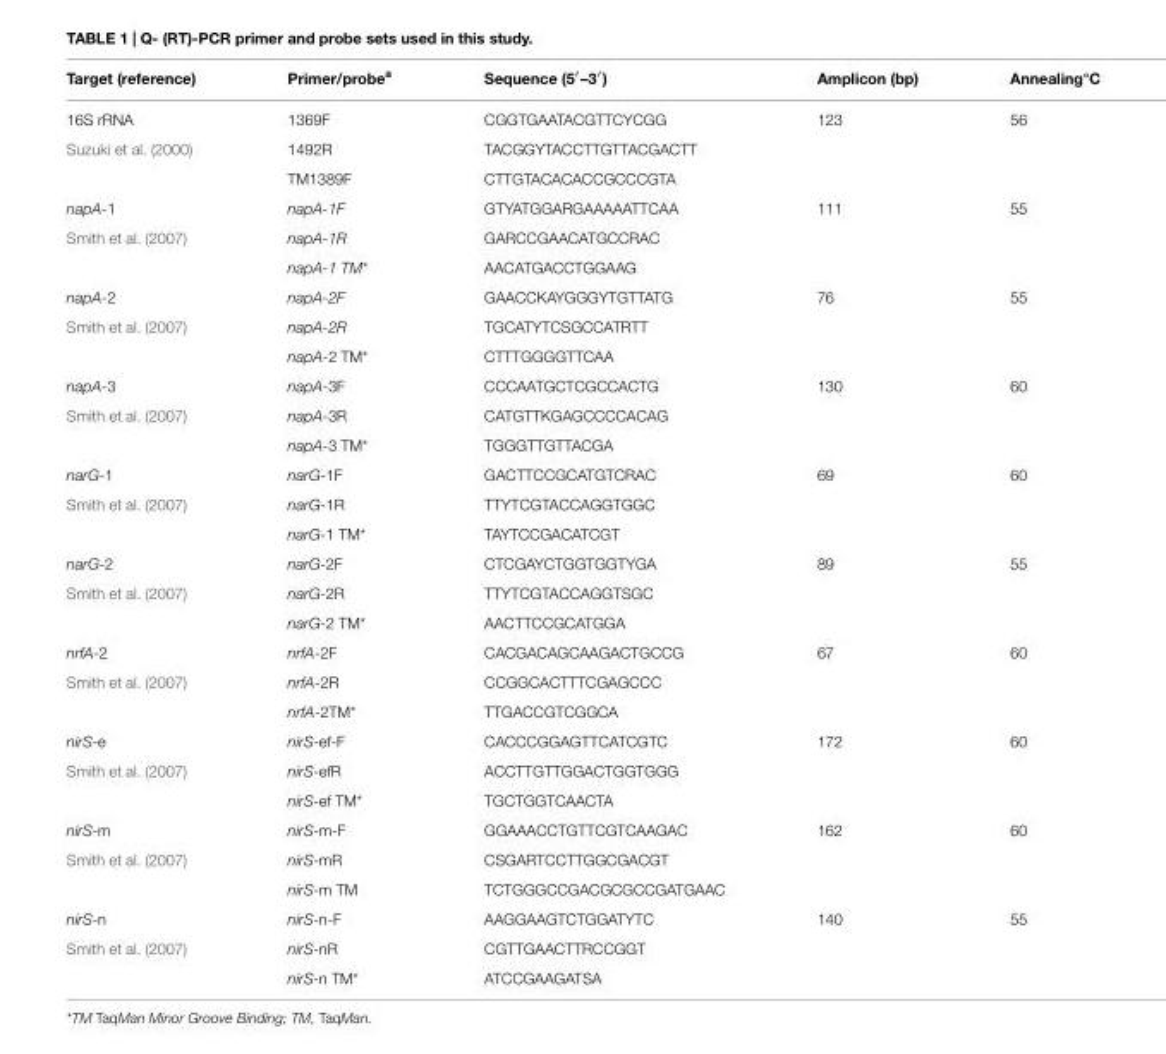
<table><thead><tr><td>Target (reference)</td><td>Primer/probe<sup>a</sup></td><td>Sequence (5′–3′)</td><td>Amplicon (bp)</td><td>Annealing°C</td></tr></thead><tbody><tr><td>16S rRNA</td><td>1369F</td><td>CGGTGAATACGTTCYCGG</td><td>123</td><td>56</td></tr><tr><td rowspan="2">Suzuki et al. (2000)</td><td>1492R</td><td>TACGGYTACCTTGTTACGACTT</td><td></td><td></td></tr><tr><td>TM1389F</td><td>CTTGTACACACCGCCCGTA</td><td></td><td></td></tr><tr><td>napA-1</td><td>napA-1F</td><td>GTYATGGARGAAAAATTCAA</td><td>111</td><td>55</td></tr><tr><td rowspan="2">Smith et al. (2007)</td><td>napA-1R</td><td>GARCCGAACATGCCRAC</td><td></td><td></td></tr><tr><td>napA-1 TM*</td><td>AACATGACCTGGAAG</td><td></td><td></td></tr><tr><td>napA-2</td><td>napA-2F</td><td>GAACCKAYGGGYTGTTATG</td><td>76</td><td>55</td></tr><tr><td rowspan="2">Smith et al. (2007)</td><td>napA-2R</td><td>TGCATYTCSGCCATRTT</td><td></td><td></td></tr><tr><td>napA-2 TM*</td><td>CTTTGGGGTTCAA</td><td></td><td></td></tr><tr><td>napA-3</td><td>napA-3F</td><td>CCCAATGCTCGCCACTG</td><td>130</td><td>60</td></tr><tr><td rowspan="2">Smith et al. (2007)</td><td>napA-3R</td><td>CATGTTKGAGCCCCACAG</td><td></td><td></td></tr><tr><td>napA-3 TM*</td><td>TGGGTTGTTACGA</td><td></td><td></td></tr><tr><td>narG-1</td><td>narG-1F</td><td>GACTTCCGCATGTCRAC</td><td>69</td><td>60</td></tr><tr><td rowspan="2">Smith et al. (2007)</td><td>narG-1R</td><td>TTYTCGTACCAGGTGGC</td><td></td><td></td></tr><tr><td>narG-1 TM*</td><td>TAYTCCGACATCGT</td><td></td><td></td></tr><tr><td>narG-2</td><td>narG-2F</td><td>CTCGAYCTGGTGGTYGA</td><td>89</td><td>55</td></tr><tr><td rowspan="2">Smith et al. (2007)</td><td>narG-2R</td><td>TTYTCGTACCAGGTSGC</td><td></td><td></td></tr><tr><td>narG-2 TM*</td><td>AACTTCCGCATGGA</td><td></td><td></td></tr><tr><td>nrfA-2</td><td>nrfA-2F</td><td>CACGACAGCAAGACTGCCG</td><td>67</td><td>60</td></tr><tr><td rowspan="2">Smith et al. (2007)</td><td>nrfA-2R</td><td>CCGGCACTTTCGAGCCC</td><td></td><td></td></tr><tr><td>nrfA-2TM*</td><td>TTGACCGTCGGCA</td><td></td><td></td></tr><tr><td>nirS-e</td><td>nirS-ef-F</td><td>CACCCGGAGTTCATCGTC</td><td>172</td><td>60</td></tr><tr><td rowspan="2">Smith et al. (2007)</td><td>nirS-efR</td><td>ACCTTGTTGGACTGGTGGG</td><td></td><td></td></tr><tr><td>nirS-ef TM*</td><td>TGCTGGTCAACTA</td><td></td><td></td></tr><tr><td>nirS-m</td><td>nirS-m-F</td><td>GGAAACCTGTTCGTCAAGAC</td><td>162</td><td>60</td></tr><tr><td rowspan="2">Smith et al. (2007)</td><td>nirS-mR</td><td>CSGARTCCTTGGCGACGT</td><td></td><td></td></tr><tr><td>nirS-m TM</td><td>TCTGGGCCGACGCGCCGATGAAC</td><td></td><td></td></tr><tr><td>nirS-n</td><td>nirS-n-F</td><td>AAGGAAGTCTGGATYTC</td><td>140</td><td>55</td></tr><tr><td rowspan="2">Smith et al. (2007)</td><td>nirS-nR</td><td>CGTTGAACTTRCCGGT</td><td></td><td></td></tr><tr><td>nirS-n TM*</td><td>ATCCGAAGATSA</td><td></td><td></td></tr></tbody></table>